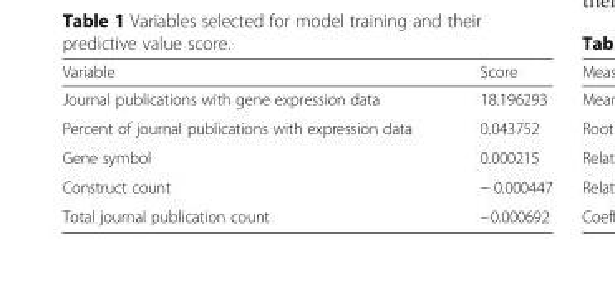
<table><thead><tr><td>Variable</td><td>Score</td></tr></thead><tbody><tr><td>Journal publications with gene expression data</td><td>18.196293</td></tr><tr><td>Percent of journal publications with expression data</td><td>0.043752</td></tr><tr><td>Gene symbol</td><td>0.000215</td></tr><tr><td>Construct count</td><td>− 0.000447</td></tr><tr><td>Total journal publication count</td><td>−0.000692</td></tr></tbody></table>